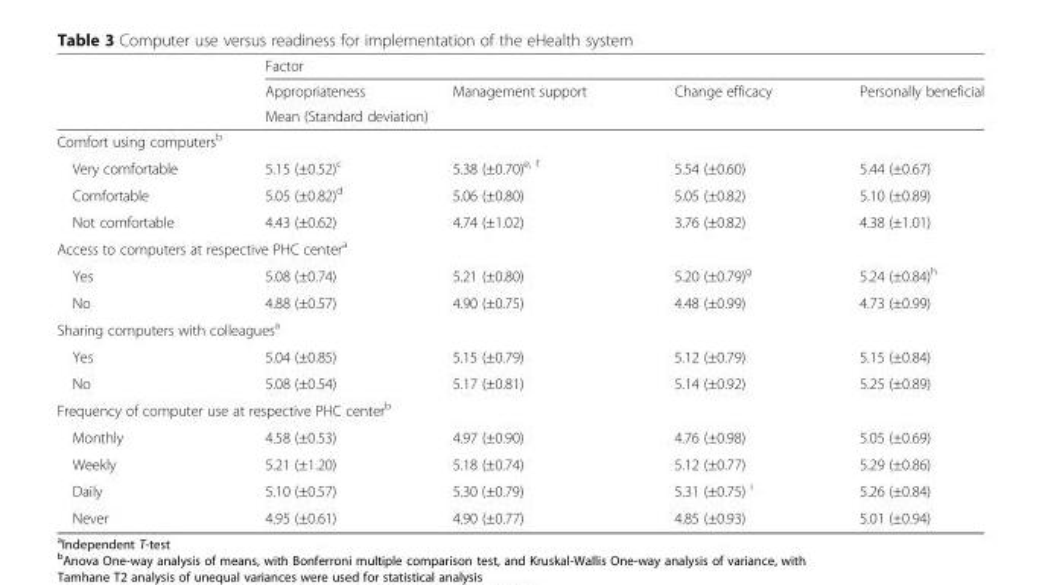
<table><thead><tr><td rowspan="3"></td><td colspan="4">Factor</td></tr><tr><td>Appropriateness</td><td>Management support</td><td>Change efficacy</td><td>Personally beneficial</td></tr><tr><td colspan="4">Mean (Standard deviation)</td></tr></thead><tbody><tr><td colspan="5">Comfort using computers<sup>b</sup></td></tr><tr><td>Very comfortable</td><td>5.15 (±0.52)<sup>c</sup></td><td>5.38 (±0.70)<sup>e, f</sup></td><td>5.54 (±0.60)</td><td>5.44 (±0.67)</td></tr><tr><td>Comfortable</td><td>5.05 (±0.82)<sup>d</sup></td><td>5.06 (±0.80)</td><td>5.05 (±0.82)</td><td>5.10 (±0.89)</td></tr><tr><td>Not comfortable</td><td>4.43 (±0.62)</td><td>4.74 (±1.02)</td><td>3.76 (±0.82)</td><td>4.38 (±1.01)</td></tr><tr><td colspan="5">Access to computers at respective PHC center<sup>a</sup></td></tr><tr><td>Yes</td><td>5.08 (±0.74)</td><td>5.21 (±0.80)</td><td>5.20 (±0.79)<sup>g</sup></td><td>5.24 (±0.84)<sup>h</sup></td></tr><tr><td>No</td><td>4.88 (±0.57)</td><td>4.90 (±0.75)</td><td>4.48 (±0.99)</td><td>4.73 (±0.99)</td></tr><tr><td colspan="5">Sharing computers with colleagues<sup>a</sup></td></tr><tr><td>Yes</td><td>5.04 (±0.85)</td><td>5.15 (±0.79)</td><td>5.12 (±0.79)</td><td>5.15 (±0.84)</td></tr><tr><td>No</td><td>5.08 (±0.54)</td><td>5.17 (±0.81)</td><td>5.14 (±0.92)</td><td>5.25 (±0.89)</td></tr><tr><td colspan="5">Frequency of computer use at respective PHC center<sup>b</sup></td></tr><tr><td>Monthly</td><td>4.58 (±0.53)</td><td>4.97 (±0.90)</td><td>4.76 (±0.98)</td><td>5.05 (±0.69)</td></tr><tr><td>Weekly</td><td>5.21 (±1.20)</td><td>5.18 (±0.74)</td><td>5.12 (±0.77)</td><td>5.29 (±0.86)</td></tr><tr><td>Daily</td><td>5.10 (±0.57)</td><td>5.30 (±0.79)</td><td>5.31 (±0.75) <sup>i</sup></td><td>5.26 (±0.84)</td></tr><tr><td>Never</td><td>4.95 (±0.61)</td><td>4.90 (±0.77)</td><td>4.85 (±0.93)</td><td>5.01 (±0.94)</td></tr></tbody></table>